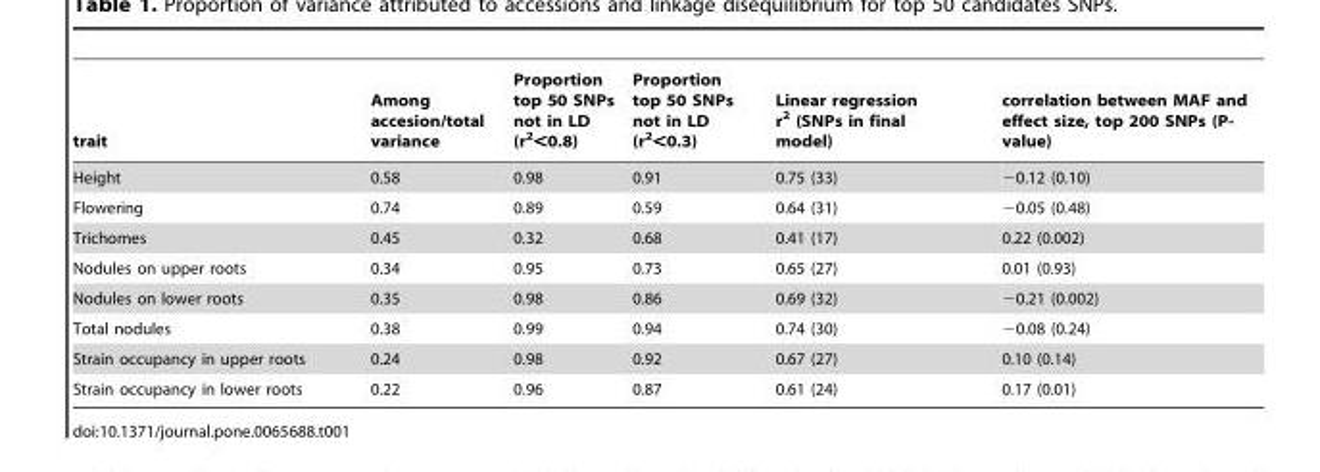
<table><thead><tr><td>trait</td><td>Among accesion/total variance</td><td>Proportion top 50 SNPs not in LD (r<sup>2</sup>&lt;0.8)</td><td>Proportion top 50 SNPs not in LD (r<sup>2</sup>&lt;0.3)</td><td>Linear regression r<sup>2</sup> (SNPs in final model)</td><td>correlation between MAF and effect size, top 200 SNPs (P- value)</td></tr></thead><tbody><tr><td>Height</td><td>0.58</td><td>0.98</td><td>0.91</td><td>0.75 (33)</td><td>−0.12 (0.10)</td></tr><tr><td>Flowering</td><td>0.74</td><td>0.89</td><td>0.59</td><td>0.64 (31)</td><td>−0.05 (0.48)</td></tr><tr><td>Trichomes</td><td>0.45</td><td>0.32</td><td>0.68</td><td>0.41 (17)</td><td>0.22 (0.002)</td></tr><tr><td>Nodules on upper roots</td><td>0.34</td><td>0.95</td><td>0.73</td><td>0.65 (27)</td><td>0.01 (0.93)</td></tr><tr><td>Nodules on lower roots</td><td>0.35</td><td>0.98</td><td>0.86</td><td>0.69 (32)</td><td>−0.21 (0.002)</td></tr><tr><td>Total nodules</td><td>0.38</td><td>0.99</td><td>0.94</td><td>0.74 (30)</td><td>−0.08 (0.24)</td></tr><tr><td>Strain occupancy in upper roots</td><td>0.24</td><td>0.98</td><td>0.92</td><td>0.67 (27)</td><td>0.10 (0.14)</td></tr><tr><td>Strain occupancy in lower roots</td><td>0.22</td><td>0.96</td><td>0.87</td><td>0.61 (24)</td><td>0.17 (0.01)</td></tr></tbody></table>